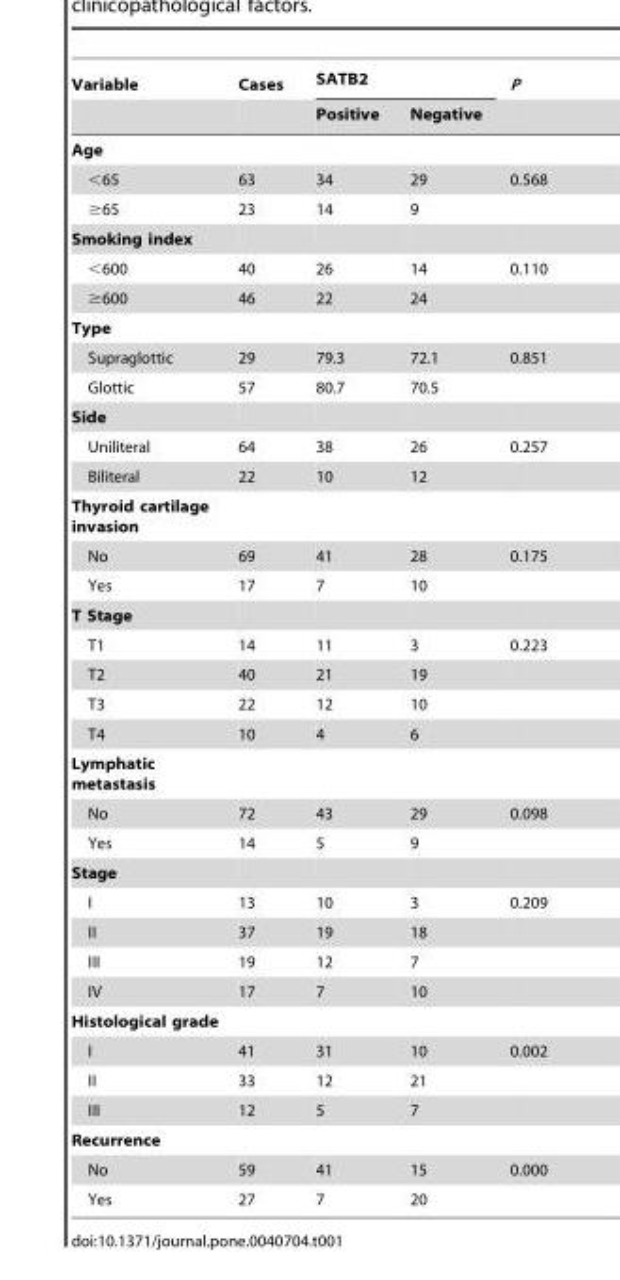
<table><thead><tr><td rowspan="2">Variable</td><td rowspan="2">Cases</td><td colspan="2">SATB2</td><td rowspan="2">P</td></tr><tr><td>Positive</td><td>Negative</td></tr></thead><tbody><tr><td colspan="5">Age</td></tr><tr><td>&lt;65</td><td>63</td><td>34</td><td>29</td><td>0.568</td></tr><tr><td>≥65</td><td>23</td><td>14</td><td>9</td><td></td></tr><tr><td colspan="5">Smoking index</td></tr><tr><td>&lt;600</td><td>40</td><td>26</td><td>14</td><td>0.110</td></tr><tr><td>≥600</td><td>46</td><td>22</td><td>24</td><td></td></tr><tr><td colspan="5">Type</td></tr><tr><td>Supraglottic</td><td>29</td><td>79.3</td><td>72.1</td><td>0.851</td></tr><tr><td>Glottic</td><td>57</td><td>80.7</td><td>70.5</td><td></td></tr><tr><td colspan="5">Side</td></tr><tr><td>Uniliteral</td><td>64</td><td>38</td><td>26</td><td>0.257</td></tr><tr><td>Biliteral</td><td>22</td><td>10</td><td>12</td><td></td></tr><tr><td colspan="5">Thyroid cartilage invasion</td></tr><tr><td>No</td><td>69</td><td>41</td><td>28</td><td>0.175</td></tr><tr><td>Yes</td><td>17</td><td>7</td><td>10</td><td></td></tr><tr><td colspan="5">T Stage</td></tr><tr><td>T1</td><td>14</td><td>11</td><td>3</td><td>0.223</td></tr><tr><td>T2</td><td>40</td><td>21</td><td>19</td><td></td></tr><tr><td>T3</td><td>22</td><td>12</td><td>10</td><td></td></tr><tr><td>T4</td><td>10</td><td>4</td><td>6</td><td></td></tr><tr><td colspan="5">Lymphatic metastasis</td></tr><tr><td>No</td><td>72</td><td>43</td><td>29</td><td>0.098</td></tr><tr><td>Yes</td><td>14</td><td>5</td><td>9</td><td></td></tr><tr><td colspan="5">Stage</td></tr><tr><td>I</td><td>13</td><td>10</td><td>3</td><td>0.209</td></tr><tr><td>II</td><td>37</td><td>19</td><td>18</td><td></td></tr><tr><td>III</td><td>19</td><td>12</td><td>7</td><td></td></tr><tr><td>IV</td><td>17</td><td>7</td><td>10</td><td></td></tr><tr><td colspan="5">Histological grade</td></tr><tr><td>I</td><td>41</td><td>31</td><td>10</td><td>0.002</td></tr><tr><td>II</td><td>33</td><td>12</td><td>21</td><td></td></tr><tr><td>III</td><td>12</td><td>5</td><td>7</td><td></td></tr><tr><td colspan="5">Recurrence</td></tr><tr><td>No</td><td>59</td><td>41</td><td>15</td><td>0.000</td></tr><tr><td>Yes</td><td>27</td><td>7</td><td>20</td><td></td></tr></tbody></table>